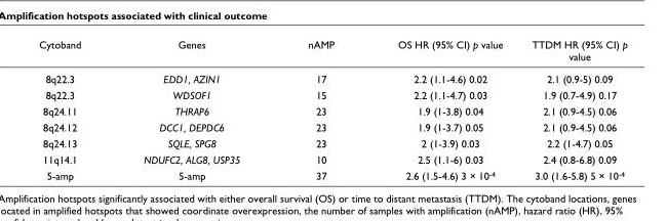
<table><thead><tr><td>Cytoband</td><td>Genes</td><td>nAMP</td><td>OS HR (95% CI) p value</td><td>TTDM HR (95% CI) p value</td></tr></thead><tbody><tr><td>8q22.3</td><td>EDD1, AZIN1</td><td>17</td><td>2.2 (1.1-4.6) 0.02</td><td>2.1 (0.9-5) 0.09</td></tr><tr><td>8q22.3</td><td>WDSOF1</td><td>15</td><td>2.2 (1.1-4.7) 0.03</td><td>1.9 (0.7-4.9) 0.17</td></tr><tr><td>8q24.11</td><td>THRAP6</td><td>23</td><td>1.9 (1-3.8) 0.04</td><td>2.1 (0.9-4.5) 0.06</td></tr><tr><td>8q24.12</td><td>DCC1, DEPDC6</td><td>23</td><td>1.9 (1-3.7) 0.05</td><td>2.1 (0.9-4.5) 0.06</td></tr><tr><td>8q24.13</td><td>SQLE, SPG8</td><td>23</td><td>2 (1-3.9) 0.03</td><td>2.2 (1-4.7) 0.05</td></tr><tr><td>11q14.1</td><td>NDUFC2, ALG8, USP35</td><td>10</td><td>2.5 (1.1-6) 0.03</td><td>2.4 (0.8-6.8) 0.09</td></tr><tr><td>5-amp</td><td>5-amp</td><td>37</td><td>2.6 (1.5-4.6) 3 × 10<sup>-4</sup></td><td>3.0 (1.6-5.8) 5 × 10<sup>-4</sup></td></tr></tbody></table>